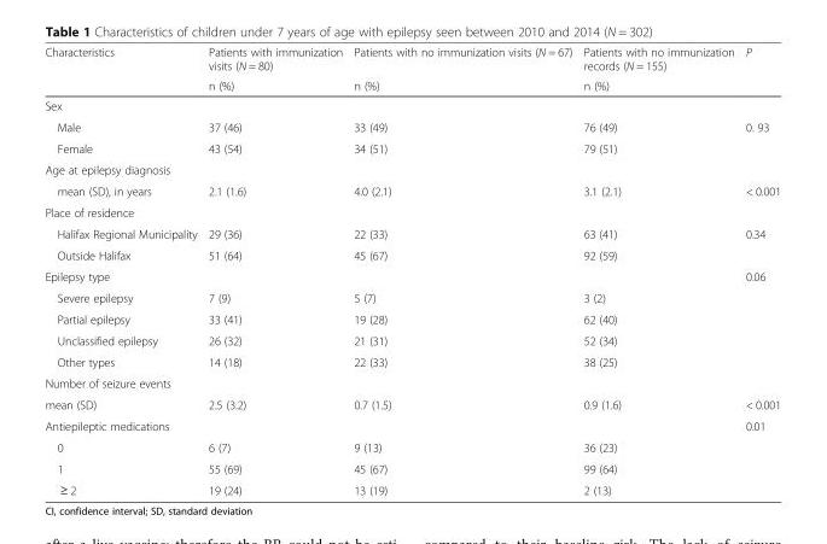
<table><thead><tr><td rowspan="2">Characteristics</td><td rowspan="2">Patients with immunization visits (N = 80) n (%)</td><td rowspan="2">Patients with no immunization visits (N = 67) n (%)</td><td rowspan="2">Patients with no immunization records (N = 155) n (%)</td><td rowspan="2">P</td></tr><tr></tr></thead><tbody><tr><td colspan="5">Sex</td></tr><tr><td>Male</td><td>37 (46)</td><td>33 (49)</td><td>76 (49)</td><td>0. 93</td></tr><tr><td>Female</td><td>43 (54)</td><td>34 (51)</td><td>79 (51)</td><td></td></tr><tr><td colspan="5">Age at epilepsy diagnosis</td></tr><tr><td>mean (SD), in years</td><td>2.1 (1.6)</td><td>4.0 (2.1)</td><td>3.1 (2.1)</td><td>&lt; 0.001</td></tr><tr><td colspan="5">Place of residence</td></tr><tr><td>Halifax Regional Municipality</td><td>29 (36)</td><td>22 (33)</td><td>63 (41)</td><td>0.34</td></tr><tr><td>Outside Halifax</td><td>51 (64)</td><td>45 (67)</td><td>92 (59)</td><td></td></tr><tr><td colspan="4">Epilepsy type</td><td>0.06</td></tr><tr><td>Severe epilepsy</td><td>7 (9)</td><td>5 (7)</td><td>3 (2)</td><td></td></tr><tr><td>Partial epilepsy</td><td>33 (41)</td><td>19 (28)</td><td>62 (40)</td><td></td></tr><tr><td>Unclassified epilepsy</td><td>26 (32)</td><td>21 (31)</td><td>52 (34)</td><td></td></tr><tr><td>Other types</td><td>14 (18)</td><td>22 (33)</td><td>38 (25)</td><td></td></tr><tr><td colspan="5">Number of seizure events</td></tr><tr><td>mean (SD)</td><td>2.5 (3.2)</td><td>0.7 (1.5)</td><td>0.9 (1.6)</td><td>&lt; 0.001</td></tr><tr><td colspan="4">Antiepileptic medications</td><td>0.01</td></tr><tr><td>0</td><td>6 (7)</td><td>9 (13)</td><td>36 (23)</td><td></td></tr><tr><td>1</td><td>55 (69)</td><td>45 (67)</td><td>99 (64)</td><td></td></tr><tr><td>≥ 2</td><td>19 (24)</td><td>13 (19)</td><td>2 (13)</td><td></td></tr></tbody></table>